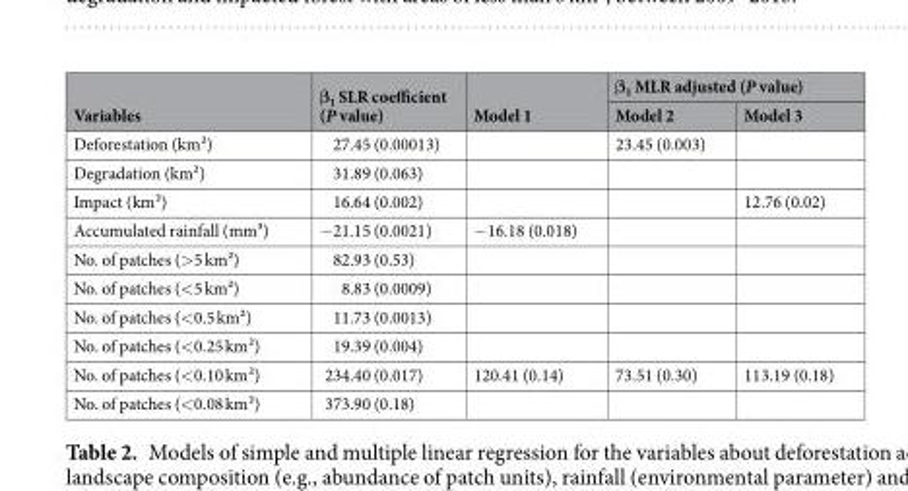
<table><thead><tr><td rowspan="2">Variables</td><td rowspan="2">β<sub>1</sub> SLR coefficient (P value)</td><td rowspan="2">Model 1</td><td colspan="2">β<sub>1</sub> MLR adjusted (P value)</td></tr><tr><td>Model 2</td><td>Model 3</td></tr></thead><tbody><tr><td>Deforestation (km²)</td><td>27.45 (0.00013)</td><td></td><td>23.45 (0.003)</td><td></td></tr><tr><td>Degradation (km²)</td><td>31.89 (0.063)</td><td></td><td></td><td></td></tr><tr><td>Impact (km²)</td><td>16.64 (0.002)</td><td></td><td></td><td>12.76 (0.02)</td></tr><tr><td>Accumulated rainfall (mm³)</td><td>−21.15 (0.0021)</td><td>−16.18 (0.018)</td><td></td><td></td></tr><tr><td>No. of patches (&gt;5 km²)</td><td>82.93 (0.53)</td><td></td><td></td><td></td></tr><tr><td>No. of patches (&lt;5 km²)</td><td>8.83 (0.0009)</td><td></td><td></td><td></td></tr><tr><td>No. of patches (&lt;0.5 km²)</td><td>11.73 (0.0013)</td><td></td><td></td><td></td></tr><tr><td>No. of patches (&lt;0.25 km²)</td><td>19.39 (0.004)</td><td></td><td></td><td></td></tr><tr><td>No. of patches (&lt;0.10 km²)</td><td>234.40 (0.017)</td><td>120.41 (0.14)</td><td>73.51 (0.30)</td><td>113.19 (0.18)</td></tr><tr><td>No. of patches (&lt;0.08 km²)</td><td>373.90 (0.18)</td><td></td><td></td><td></td></tr></tbody></table>